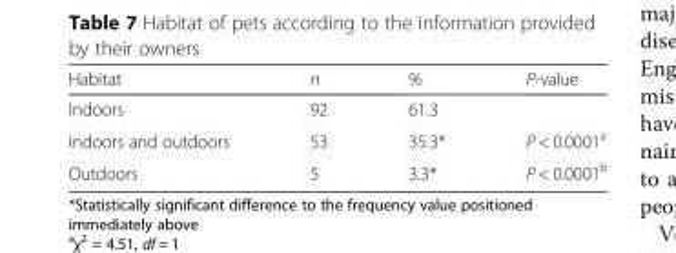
<table><thead><tr><td>Habitat</td><td>n</td><td>%</td><td>P-value</td></tr></thead><tbody><tr><td>Indoors</td><td>92</td><td>61.3</td><td></td></tr><tr><td>Indoors and outdoors</td><td>53</td><td>35.3*</td><td>P &lt; 0.0001<sup>a</sup></td></tr><tr><td>Outdoors</td><td>5</td><td>3.3*</td><td>P &lt; 0.0001<sup>b</sup></td></tr></tbody></table>